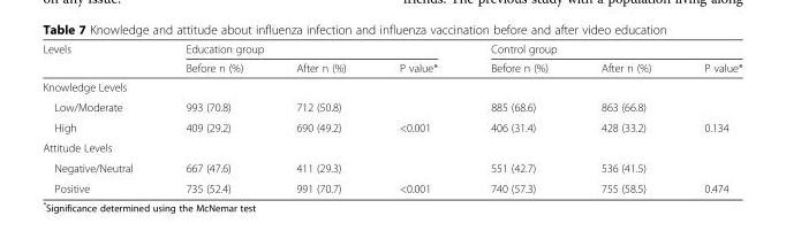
<table><thead><tr><td rowspan="2">Levels</td><td colspan="3">Education group</td><td colspan="3">Control group</td></tr><tr><td>Before n (%)</td><td>After n (%)</td><td>P value*</td><td>Before n (%)</td><td>After n (%)</td><td>P value*</td></tr></thead><tbody><tr><td colspan="7">Knowledge Levels</td></tr><tr><td>Low/Moderate</td><td>993 (70.8)</td><td>712 (50.8)</td><td></td><td>885 (68.6)</td><td>863 (66.8)</td><td></td></tr><tr><td>High</td><td>409 (29.2)</td><td>690 (49.2)</td><td>&lt;0.001</td><td>406 (31.4)</td><td>428 (33.2)</td><td>0.134</td></tr><tr><td colspan="7">Attitude Levels</td></tr><tr><td>Negative/Neutral</td><td>667 (47.6)</td><td>411 (29.3)</td><td></td><td>551 (42.7)</td><td>536 (41.5)</td><td></td></tr><tr><td>Positive</td><td>735 (52.4)</td><td>991 (70.7)</td><td>&lt;0.001</td><td>740 (57.3)</td><td>755 (58.5)</td><td>0.474</td></tr></tbody></table>